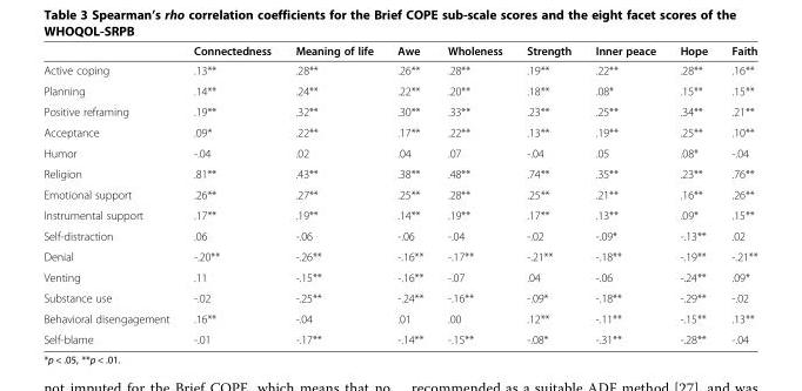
<table><thead><tr><td></td><td>Connectedness</td><td>Meaning of life</td><td>Awe</td><td>Wholeness</td><td>Strength</td><td>Inner peace</td><td>Hope</td><td>Faith</td></tr></thead><tbody><tr><td>Active coping</td><td>.13**</td><td>.28**</td><td>.26**</td><td>.28**</td><td>.19**</td><td>.22**</td><td>.28**</td><td>.16**</td></tr><tr><td>Planning</td><td>.14**</td><td>.24**</td><td>.22**</td><td>.20**</td><td>.18**</td><td>.08*</td><td>.15**</td><td>.15**</td></tr><tr><td>Positive reframing</td><td>.19**</td><td>.32**</td><td>.30**</td><td>.33**</td><td>.23**</td><td>.25**</td><td>.34**</td><td>.21**</td></tr><tr><td>Acceptance</td><td>.09*</td><td>.22**</td><td>.17**</td><td>.22**</td><td>.13**</td><td>.19**</td><td>.25**</td><td>.10**</td></tr><tr><td>Humor</td><td>-.04</td><td>.02</td><td>.04</td><td>.07</td><td>-.04</td><td>.05</td><td>.08*</td><td>-.04</td></tr><tr><td>Religion</td><td>.81**</td><td>.43**</td><td>.38**</td><td>.48**</td><td>.74**</td><td>.35**</td><td>.23**</td><td>.76**</td></tr><tr><td>Emotional support</td><td>.26**</td><td>.27**</td><td>.25**</td><td>.28**</td><td>.25**</td><td>.21**</td><td>.16**</td><td>.26**</td></tr><tr><td>Instrumental support</td><td>.17**</td><td>.19**</td><td>.14**</td><td>.19**</td><td>.17**</td><td>.13**</td><td>.09*</td><td>.15**</td></tr><tr><td>Self-distraction</td><td>.06</td><td>-.06</td><td>-.06</td><td>-.04</td><td>-.02</td><td>-.09*</td><td>-.13**</td><td>.02</td></tr><tr><td>Denial</td><td>-.20**</td><td>-.26**</td><td>-.16**</td><td>-.17**</td><td>-.21**</td><td>-.18**</td><td>-.19**</td><td>-.21**</td></tr><tr><td>Venting</td><td>.11</td><td>-.15**</td><td>-.16**</td><td>-.07</td><td>.04</td><td>-.06</td><td>-.24**</td><td>.09*</td></tr><tr><td>Substance use</td><td>-.02</td><td>-.25**</td><td>-.24**</td><td>-.16**</td><td>-.09*</td><td>-.18**</td><td>-.29**</td><td>-.02</td></tr><tr><td>Behavioral disengagement</td><td>.16**</td><td>-.04</td><td>.01</td><td>.00</td><td>.12**</td><td>-.11**</td><td>-.15**</td><td>.13**</td></tr><tr><td>Self-blame</td><td>-.01</td><td>-.17**</td><td>-.14**</td><td>-.15**</td><td>-.08*</td><td>-.31**</td><td>-.28**</td><td>-.04</td></tr></tbody></table>